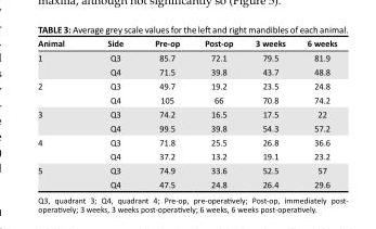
<table><thead><tr><td>Animal</td><td>Side</td><td>Pre-op</td><td>Post-op</td><td>3 weeks</td><td>6 weeks</td></tr></thead><tbody><tr><td rowspan="2">1</td><td>Q3</td><td>85.7</td><td>72.1</td><td>79.5</td><td>81.9</td></tr><tr><td>Q4</td><td>71.5</td><td>39.8</td><td>43.7</td><td>48.8</td></tr><tr><td rowspan="2">2</td><td>Q3</td><td>49.7</td><td>19.2</td><td>23.5</td><td>24.8</td></tr><tr><td>Q4</td><td>105</td><td>66</td><td>70.8</td><td>74.2</td></tr><tr><td rowspan="2">3</td><td>Q3</td><td>74.2</td><td>16.5</td><td>17.5</td><td>22</td></tr><tr><td>Q4</td><td>99.5</td><td>39.8</td><td>54.3</td><td>57.2</td></tr><tr><td rowspan="2">4</td><td>Q3</td><td>71.8</td><td>25.5</td><td>26.8</td><td>36.6</td></tr><tr><td>Q4</td><td>37.2</td><td>13.2</td><td>19.1</td><td>23.2</td></tr><tr><td rowspan="2">5</td><td>Q3</td><td>74.9</td><td>33.6</td><td>52.5</td><td>57</td></tr><tr><td>Q4</td><td>47.5</td><td>24.8</td><td>26.4</td><td>29.6</td></tr></tbody></table>